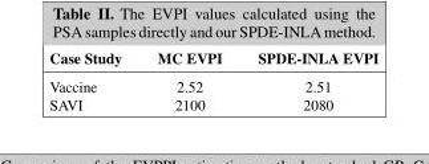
<table><thead><tr><td>Case Study</td><td>MC EVPI</td><td>SPDE-INLA EVPI</td></tr></thead><tbody><tr><td>Vaccine</td><td>2.52</td><td>2.51</td></tr><tr><td>SAVI</td><td>2100</td><td>2080</td></tr></tbody></table>